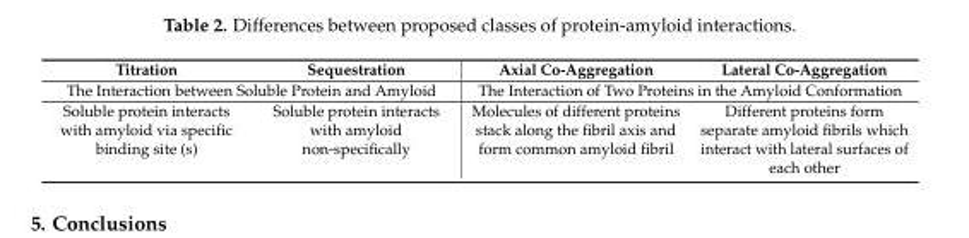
<table><thead><tr><td>Titration</td><td>Sequestration</td><td>Axial Co-Aggregation</td><td>Lateral Co-Aggregation</td></tr></thead><tbody><tr><td colspan="2">The Interaction between Soluble Protein and Amyloid</td><td colspan="2">The Interaction of Two Proteins in the Amyloid Conformation</td></tr><tr><td>Soluble protein interacts with amyloid via specific binding site (s)</td><td>Soluble protein interacts with amyloid non-specifically</td><td>Molecules of different proteins stack along the fibril axis and form common amyloid fibril</td><td>Different proteins form separate amyloid fibrils which interact with lateral surfaces of each other</td></tr></tbody></table>